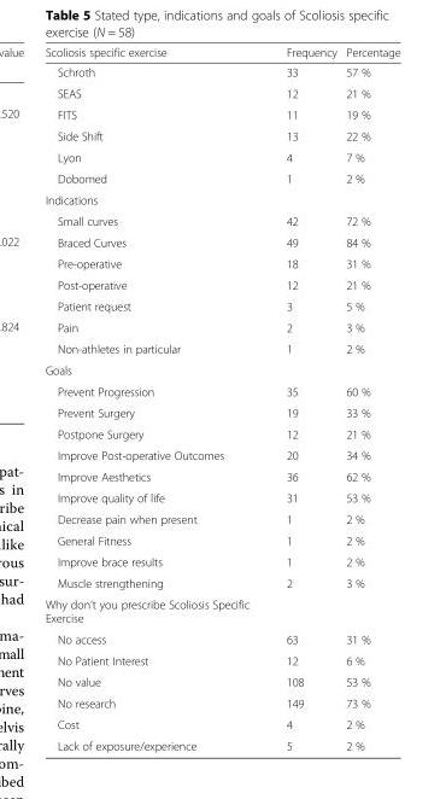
<table><thead><tr><td>Scoliosis specific exercise</td><td>Frequency</td><td>Percentage</td></tr></thead><tbody><tr><td>Schroth</td><td>33</td><td>57 %</td></tr><tr><td>SEAS</td><td>12</td><td>21 %</td></tr><tr><td>FITS</td><td>11</td><td>19 %</td></tr><tr><td>Side Shift</td><td>13</td><td>22 %</td></tr><tr><td>Lyon</td><td>4</td><td>7 %</td></tr><tr><td>Dobomed</td><td>1</td><td>2 %</td></tr><tr><td colspan="3">Indications</td></tr><tr><td>Small curves</td><td>42</td><td>72 %</td></tr><tr><td>Braced Curves</td><td>49</td><td>84 %</td></tr><tr><td>Pre-operative</td><td>18</td><td>31 %</td></tr><tr><td>Post-operative</td><td>12</td><td>21 %</td></tr><tr><td>Patient request</td><td>3</td><td>5 %</td></tr><tr><td>Pain</td><td>2</td><td>3 %</td></tr><tr><td>Non-athletes in particular</td><td>1</td><td>2 %</td></tr><tr><td colspan="3">Goals</td></tr><tr><td>Prevent Progression</td><td>35</td><td>60 %</td></tr><tr><td>Prevent Surgery</td><td>19</td><td>33 %</td></tr><tr><td>Postpone Surgery</td><td>12</td><td>21 %</td></tr><tr><td>Improve Post-operative Outcomes</td><td>20</td><td>34 %</td></tr><tr><td>Improve Aesthetics</td><td>36</td><td>62 %</td></tr><tr><td>Improve quality of life</td><td>31</td><td>53 %</td></tr><tr><td>Decrease pain when present</td><td>1</td><td>2 %</td></tr><tr><td>General Fitness</td><td>1</td><td>2 %</td></tr><tr><td>Improve brace results</td><td>1</td><td>2 %</td></tr><tr><td>Muscle strengthening</td><td>2</td><td>3 %</td></tr><tr><td colspan="3">Why don’t you prescribe Scoliosis Specific Exercise</td></tr><tr><td>No access</td><td>63</td><td>31 %</td></tr><tr><td>No Patient Interest</td><td>12</td><td>6 %</td></tr><tr><td>No value</td><td>108</td><td>53 %</td></tr><tr><td>No research</td><td>149</td><td>73 %</td></tr><tr><td>Cost</td><td>4</td><td>2 %</td></tr><tr><td>Lack of exposure/experience</td><td>5</td><td>2 %</td></tr></tbody></table>